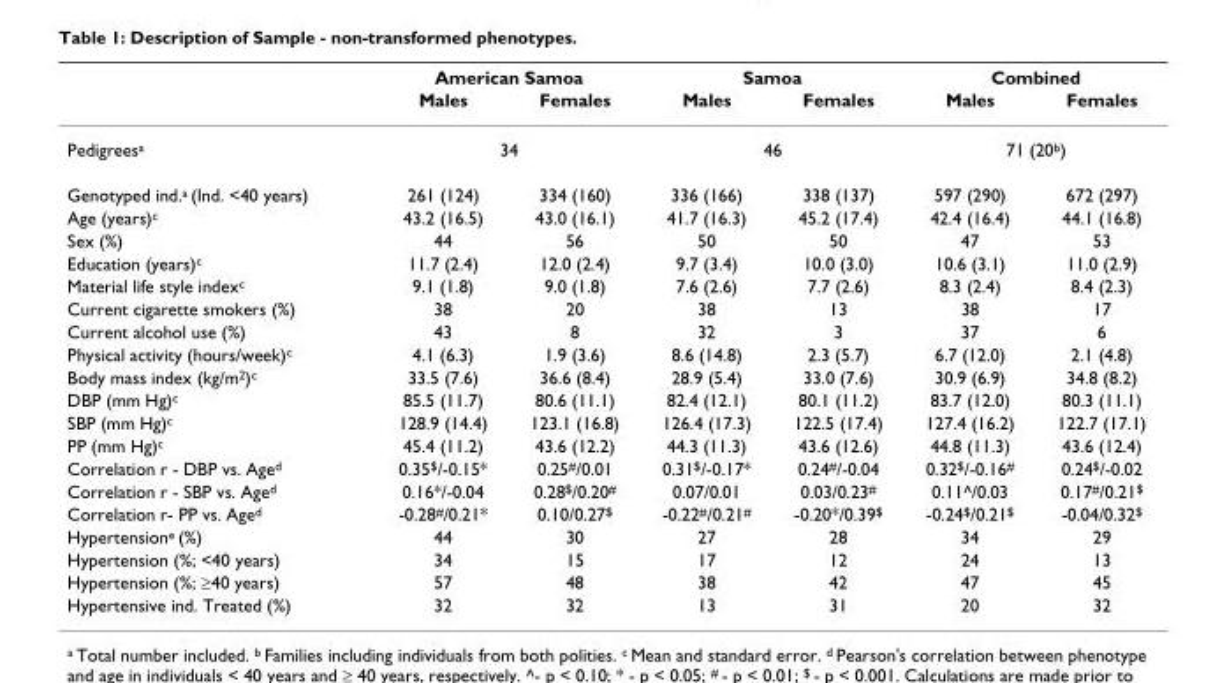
<table><thead><tr><td rowspan="2"></td><td colspan="2">American Samoa</td><td colspan="2">Samoa</td><td colspan="2">Combined</td></tr><tr><td>Males</td><td>Females</td><td>Males</td><td>Females</td><td>Males</td><td>Females</td></tr></thead><tbody><tr><td>Pedigrees<sup>a</sup></td><td colspan="2">34</td><td colspan="2">46</td><td colspan="2">71 (20<sup>b</sup>)</td></tr><tr><td>Genotyped ind.<sup>a</sup> (Ind. &lt;40 years)</td><td>261 (124)</td><td>334 (160)</td><td>336 (166)</td><td>338 (137)</td><td>597 (290)</td><td>672 (297)</td></tr><tr><td>Age (years)<sup>c</sup></td><td>43.2 (16.5)</td><td>43.0 (16.1)</td><td>41.7 (16.3)</td><td>45.2 (17.4)</td><td>42.4 (16.4)</td><td>44.1 (16.8)</td></tr><tr><td>Sex (%)</td><td>44</td><td>56</td><td>50</td><td>50</td><td>47</td><td>53</td></tr><tr><td>Education (years)<sup>c</sup></td><td>11.7 (2.4)</td><td>12.0 (2.4)</td><td>9.7 (3.4)</td><td>10.0 (3.0)</td><td>10.6 (3.1)</td><td>11.0 (2.9)</td></tr><tr><td>Material life style index<sup>c</sup></td><td>9.1 (1.8)</td><td>9.0 (1.8)</td><td>7.6 (2.6)</td><td>7.7 (2.6)</td><td>8.3 (2.4)</td><td>8.4 (2.3)</td></tr><tr><td>Current cigarette smokers (%)</td><td>38</td><td>20</td><td>38</td><td>13</td><td>38</td><td>17</td></tr><tr><td>Current alcohol use (%)</td><td>43</td><td>8</td><td>32</td><td>3</td><td>37</td><td>6</td></tr><tr><td>Physical activity (hours/week)<sup>c</sup></td><td>4.1 (6.3)</td><td>1.9 (3.6)</td><td>8.6 (14.8)</td><td>2.3 (5.7)</td><td>6.7 (12.0)</td><td>2.1 (4.8)</td></tr><tr><td>Body mass index (kg/m<sup>2</sup>)<sup>c</sup></td><td>33.5 (7.6)</td><td>36.6 (8.4)</td><td>28.9 (5.4)</td><td>33.0 (7.6)</td><td>30.9 (6.9)</td><td>34.8 (8.2)</td></tr><tr><td>DBP (mm Hg)<sup>c</sup></td><td>85.5 (11.7)</td><td>80.6 (11.1)</td><td>82.4 (12.1)</td><td>80.1 (11.2)</td><td>83.7 (12.0)</td><td>80.3 (11.1)</td></tr><tr><td>SBP (mm Hg)<sup>c</sup></td><td>128.9 (14.4)</td><td>123.1 (16.8)</td><td>126.4 (17.3)</td><td>122.5 (17.4)</td><td>127.4 (16.2)</td><td>122.7 (17.1)</td></tr><tr><td>PP (mm Hg)<sup>c</sup></td><td>45.4 (11.2)</td><td>43.6 (12.2)</td><td>44.3 (11.3)</td><td>43.6 (12.6)</td><td>44.8 (11.3)</td><td>43.6 (12.4)</td></tr><tr><td>Correlation r - DBP vs. Age<sup>d</sup></td><td>0.35<sup>$</sup>/-0.15*</td><td>0.25<sup>#</sup>/0.01</td><td>0.31<sup>$</sup>/-0.17*</td><td>0.24<sup>#</sup>/-0.04</td><td>0.32<sup>$</sup>/-0.16<sup>#</sup></td><td>0.24<sup>$</sup>/-0.02</td></tr><tr><td>Correlation r - SBP vs. Age<sup>d</sup></td><td>0.16*/-0.04</td><td>0.28<sup>$</sup>/0.20<sup>#</sup></td><td>0.07/0.01</td><td>0.03/0.23<sup>#</sup></td><td>0.11^/0.03</td><td>0.17<sup>#</sup>/0.21<sup>$</sup></td></tr><tr><td>Correlation r- PP vs. Age<sup>d</sup></td><td>-0.28<sup>#</sup>/0.21*</td><td>0.10/0.27<sup>$</sup></td><td>-0.22<sup>#</sup>/0.21<sup>#</sup></td><td>-0.20*/0.39<sup>$</sup></td><td>-0.24<sup>$</sup>/0.21<sup>$</sup></td><td>-0.04/0.32<sup>$</sup></td></tr><tr><td>Hypertension<sup>e</sup> (%)</td><td>44</td><td>30</td><td>27</td><td>28</td><td>34</td><td>29</td></tr><tr><td>Hypertension (%; &lt;40 years)</td><td>34</td><td>15</td><td>17</td><td>12</td><td>24</td><td>13</td></tr><tr><td>Hypertension (%; ≥40 years)</td><td>57</td><td>48</td><td>38</td><td>42</td><td>47</td><td>45</td></tr><tr><td>Hypertensive ind. Treated (%)</td><td>32</td><td>32</td><td>13</td><td>31</td><td>20</td><td>32</td></tr></tbody></table>